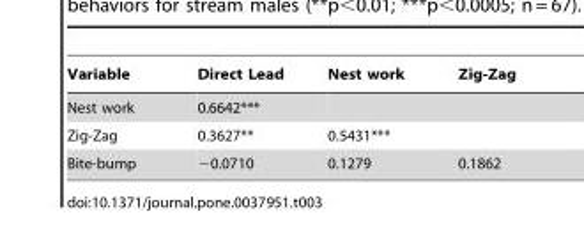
<table><thead><tr><td>Variable</td><td>Direct Lead</td><td>Nest work</td><td>Zig-Zag</td></tr></thead><tbody><tr><td>Nest work</td><td>0.6642***</td><td></td><td></td></tr><tr><td>Zig-Zag</td><td>0.3627**</td><td>0.5431***</td><td></td></tr><tr><td>Bite-bump</td><td>−0.0710</td><td>0.1279</td><td>0.1862</td></tr></tbody></table>